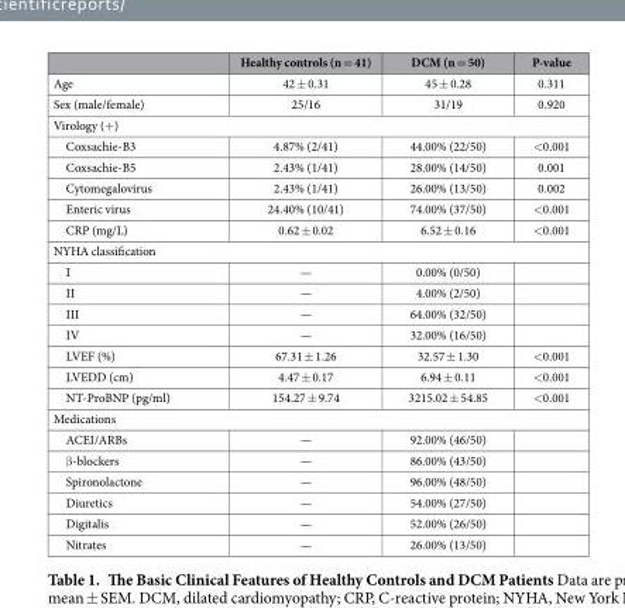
<table><thead><tr><td></td><td>Healthy controls (n = 41)</td><td>DCM (n = 50)</td><td>P-value</td></tr></thead><tbody><tr><td>Age</td><td>42 ± 0.31</td><td>45 ± 0.28</td><td>0.311</td></tr><tr><td>Sex (male/female)</td><td>25/16</td><td>31/19</td><td>0.920</td></tr><tr><td colspan="4">Virology (+ )</td></tr><tr><td>Coxsachie-B3</td><td>4.87% (2/41)</td><td>44.00% (22/50)</td><td>&lt; 0.001</td></tr><tr><td>Coxsachie-B5</td><td>2.43% (1/41)</td><td>28.00% (14/50)</td><td>0.001</td></tr><tr><td>Cytomegalovirus</td><td>2.43% (1/41)</td><td>26.00% (13/50)</td><td>0.002</td></tr><tr><td>Enteric virus</td><td>24.40% (10/41)</td><td>74.00% (37/50)</td><td>&lt; 0.001</td></tr><tr><td>CRP (mg/L)</td><td>0.62 ± 0.02</td><td>6.52 ± 0.16</td><td>&lt; 0.001</td></tr><tr><td colspan="4">NYHA classification</td></tr><tr><td>I</td><td>—</td><td>0.00% (0/50)</td><td></td></tr><tr><td>II</td><td>—</td><td>4.00% (2/50)</td><td></td></tr><tr><td>III</td><td>—</td><td>64.00% (32/50)</td><td></td></tr><tr><td>IV</td><td>—</td><td>32.00% (16/50)</td><td></td></tr><tr><td>LVEF (%)</td><td>67.31 ± 1.26</td><td>32.57 ± 1.30</td><td>&lt; 0.001</td></tr><tr><td>LVEDD (cm)</td><td>4.47 ± 0.17</td><td>6.94 ± 0.11</td><td>&lt; 0.001</td></tr><tr><td>NT-ProBNP (pg/ml)</td><td>154.27 ± 9.74</td><td>3215.02 ± 54.85</td><td>&lt; 0.001</td></tr><tr><td colspan="4">Medications</td></tr><tr><td>ACEI/ARBs</td><td>—</td><td>92.00% (46/50)</td><td></td></tr><tr><td>β -blockers</td><td>—</td><td>86.00% (43/50)</td><td></td></tr><tr><td>Spironolactone</td><td>—</td><td>96.00% (48/50)</td><td></td></tr><tr><td>Diuretics</td><td>—</td><td>54.00% (27/50)</td><td></td></tr><tr><td>Digitalis</td><td>—</td><td>52.00% (26/50)</td><td></td></tr><tr><td>Nitrates</td><td>—</td><td>26.00% (13/50)</td><td></td></tr></tbody></table>